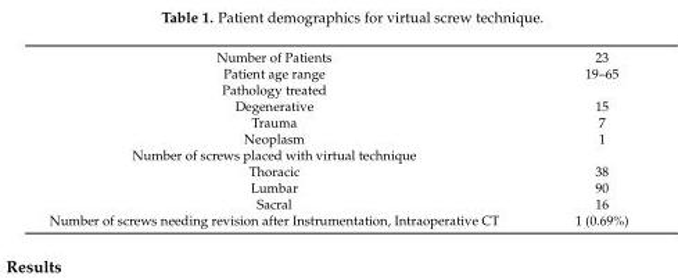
<table><tbody><tr><td>Number of Patients</td><td>23</td></tr><tr><td>Patient age range</td><td>19–65</td></tr><tr><td colspan="2">Pathology treated</td></tr><tr><td>Degenerative</td><td>15</td></tr><tr><td>Trauma</td><td>7</td></tr><tr><td>Neoplasm</td><td>1</td></tr><tr><td colspan="2">Number of screws placed with virtual technique</td></tr><tr><td>Thoracic</td><td>38</td></tr><tr><td>Lumbar</td><td>90</td></tr><tr><td>Sacral</td><td>16</td></tr><tr><td>Number of screws needing revision after Instrumentation, Intraoperative CT</td><td>1 (0.69%)</td></tr></tbody></table>